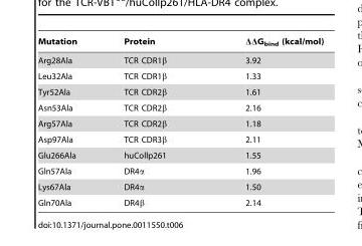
<table><thead><tr><td>Mutation</td><td>Protein</td><td>ΔΔG<sub>bind</sub> (kcal/mol)</td></tr></thead><tbody><tr><td>Arg28Ala</td><td>TCR CDR1β</td><td>3.92</td></tr><tr><td>Leu32Ala</td><td>TCR CDR1β</td><td>1.33</td></tr><tr><td>Tyr52Ala</td><td>TCR CDR2β</td><td>1.61</td></tr><tr><td>Asn53Ala</td><td>TCR CDR2β</td><td>2.16</td></tr><tr><td>Arg57Ala</td><td>TCR CDR2β</td><td>1.18</td></tr><tr><td>Asp97Ala</td><td>TCR CDR3β</td><td>2.11</td></tr><tr><td>Glu266Ala</td><td>huCollp261</td><td>1.55</td></tr><tr><td>Gln57Ala</td><td>DR4α</td><td>1.96</td></tr><tr><td>Lys67Ala</td><td>DR4α</td><td>1.50</td></tr><tr><td>Gln70Ala</td><td>DR4β</td><td>2.14</td></tr></tbody></table>